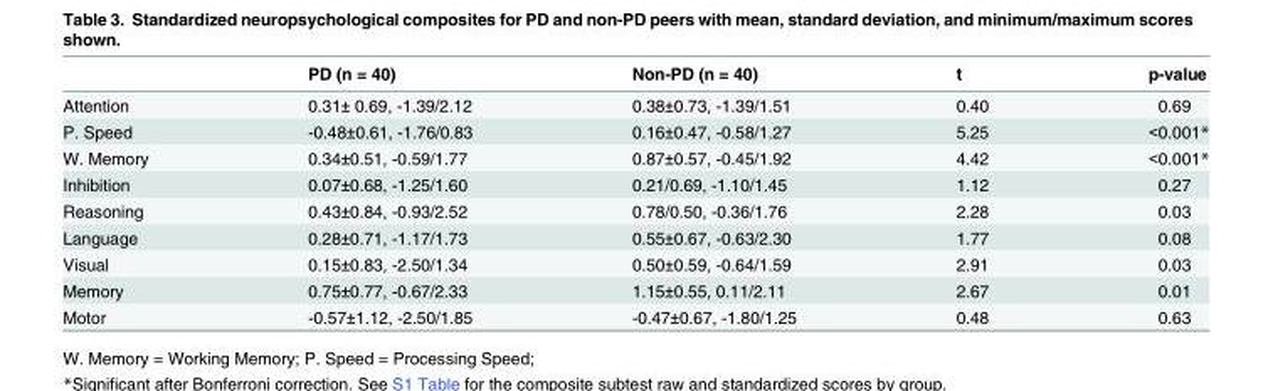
<table><thead><tr><td></td><td>PD (n = 40)</td><td>Non-PD (n = 40)</td><td>t</td><td>p-value</td></tr></thead><tbody><tr><td>Attention</td><td>0.31± 0.69, -1.39/2.12</td><td>0.38±0.73, -1.39/1.51</td><td>0.40</td><td>0.69</td></tr><tr><td>P. Speed</td><td>-0.48±0.61, -1.76/0.83</td><td>0.16±0.47, -0.58/1.27</td><td>5.25</td><td>&lt;0.001*</td></tr><tr><td>W. Memory</td><td>0.34±0.51, -0.59/1.77</td><td>0.87±0.57, -0.45/1.92</td><td>4.42</td><td>&lt;0.001*</td></tr><tr><td>Inhibition</td><td>0.07±0.68, -1.25/1.60</td><td>0.21/0.69, -1.10/1.45</td><td>1.12</td><td>0.27</td></tr><tr><td>Reasoning</td><td>0.43±0.84, -0.93/2.52</td><td>0.78/0.50, -0.36/1.76</td><td>2.28</td><td>0.03</td></tr><tr><td>Language</td><td>0.28±0.71, -1.17/1.73</td><td>0.55±0.67, -0.63/2.30</td><td>1.77</td><td>0.08</td></tr><tr><td>Visual</td><td>0.15±0.83, -2.50/1.34</td><td>0.50±0.59, -0.64/1.59</td><td>2.91</td><td>0.03</td></tr><tr><td>Memory</td><td>0.75±0.77, -0.67/2.33</td><td>1.15±0.55, 0.11/2.11</td><td>2.67</td><td>0.01</td></tr><tr><td>Motor</td><td>-0.57±1.12, -2.50/1.85</td><td>-0.47±0.67, -1.80/1.25</td><td>0.48</td><td>0.63</td></tr></tbody></table>